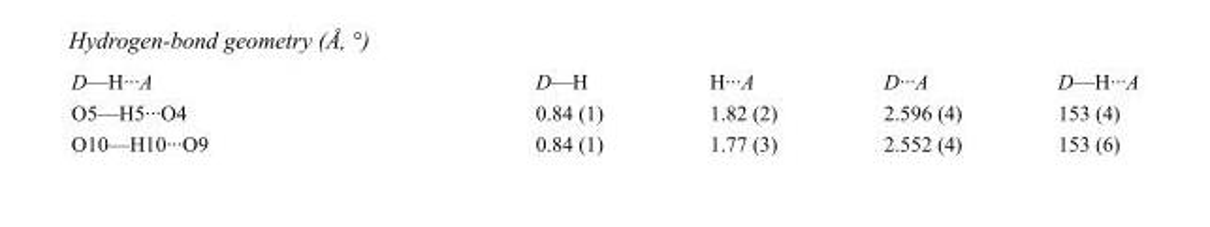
<table><tbody><tr><td>D—H···A</td><td>D—H</td><td>H···A</td><td>D···A</td><td>D—H···A</td></tr><tr><td>O5—H5···O4</td><td>0.84 (1)</td><td>1.82 (2)</td><td>2.596 (4)</td><td>153 (4)</td></tr><tr><td>O10—H10···O9</td><td>0.84 (1)</td><td>1.77 (3)</td><td>2.552 (4)</td><td>153 (6)</td></tr></tbody></table>